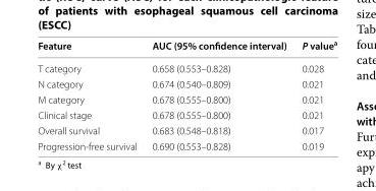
<table><thead><tr><td>Feature</td><td>AUC (95% confidence interval)</td><td>P value<sup>a</sup></td></tr></thead><tbody><tr><td>T category</td><td>0.658 (0.553–0.828)</td><td>0.028</td></tr><tr><td>N category</td><td>0.674 (0.540–0.809)</td><td>0.021</td></tr><tr><td>M category</td><td>0.678 (0.555–0.800)</td><td>0.021</td></tr><tr><td>Clinical stage</td><td>0.678 (0.555–0.800)</td><td>0.021</td></tr><tr><td>Overall survival</td><td>0.683 (0.548–0.818)</td><td>0.017</td></tr><tr><td>Progression‑free survival</td><td>0.690 (0.553–0.828)</td><td>0.019</td></tr></tbody></table>